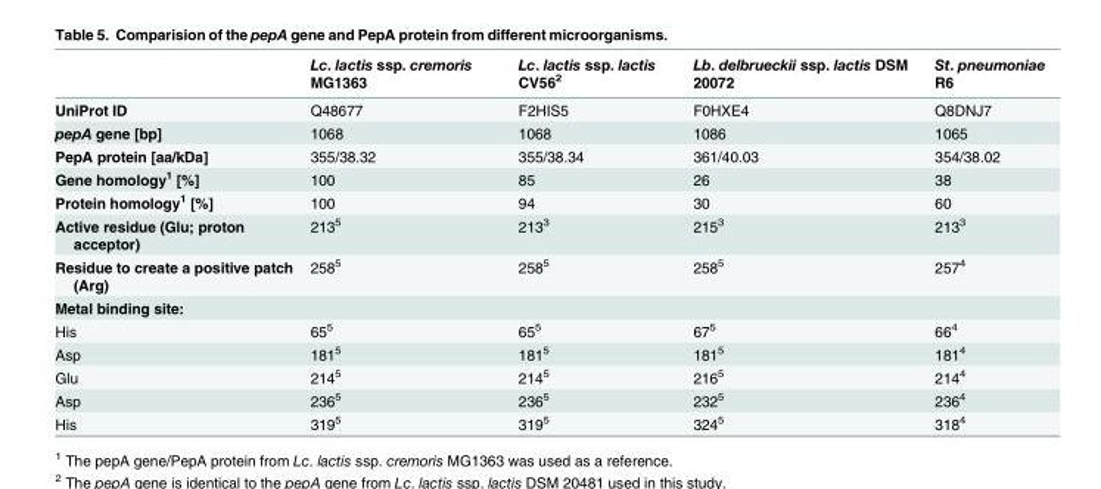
<table><thead><tr><td></td><td>Lc. lactis ssp. cremoris MG1363</td><td>Lc. lactis ssp. lactis CV56<sup>2</sup></td><td>Lb. delbrueckii ssp. lactis DSM 20072</td><td>St. pneumoniae R6</td></tr></thead><tbody><tr><td>UniProt ID</td><td>Q48677</td><td>F2HIS5</td><td>F0HXE4</td><td>Q8DNJ7</td></tr><tr><td>pepA gene [bp]</td><td>1068</td><td>1068</td><td>1086</td><td>1065</td></tr><tr><td>PepA protein [aa/kDa]</td><td>355/38.32</td><td>355/38.34</td><td>361/40.03</td><td>354/38.02</td></tr><tr><td>Gene homology<sup>1</sup> [%]</td><td>100</td><td>85</td><td>26</td><td>38</td></tr><tr><td>Protein homology<sup>1</sup> [%]</td><td>100</td><td>94</td><td>30</td><td>60</td></tr><tr><td>Active residue (Glu; proton acceptor)</td><td>213<sup>5</sup></td><td>213<sup>3</sup></td><td>215<sup>3</sup></td><td>213<sup>3</sup></td></tr><tr><td>Residue to create a positive patch (Arg)</td><td>258<sup>5</sup></td><td>258<sup>5</sup></td><td>258<sup>5</sup></td><td>257<sup>4</sup></td></tr><tr><td colspan="5">Metal binding site:</td></tr><tr><td>His</td><td>65<sup>5</sup></td><td>65<sup>5</sup></td><td>67<sup>5</sup></td><td>66<sup>4</sup></td></tr><tr><td>Asp</td><td>181<sup>5</sup></td><td>181<sup>5</sup></td><td>181<sup>5</sup></td><td>181<sup>4</sup></td></tr><tr><td>Glu</td><td>214<sup>5</sup></td><td>214<sup>5</sup></td><td>216<sup>5</sup></td><td>214<sup>4</sup></td></tr><tr><td>Asp</td><td>236<sup>5</sup></td><td>236<sup>5</sup></td><td>232<sup>5</sup></td><td>236<sup>4</sup></td></tr><tr><td>His</td><td>319<sup>5</sup></td><td>319<sup>5</sup></td><td>324<sup>5</sup></td><td>318<sup>4</sup></td></tr></tbody></table>